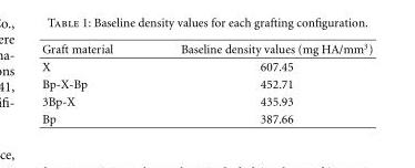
<table><thead><tr><td>Graft material</td><td>Baseline density values (mg HA/mm<sup>3</sup>)</td></tr></thead><tbody><tr><td>X</td><td>607.45</td></tr><tr><td>Bp-X-Bp</td><td>452.71</td></tr><tr><td>3Bp-X</td><td>435.93</td></tr><tr><td>Bp</td><td>387.66</td></tr></tbody></table>